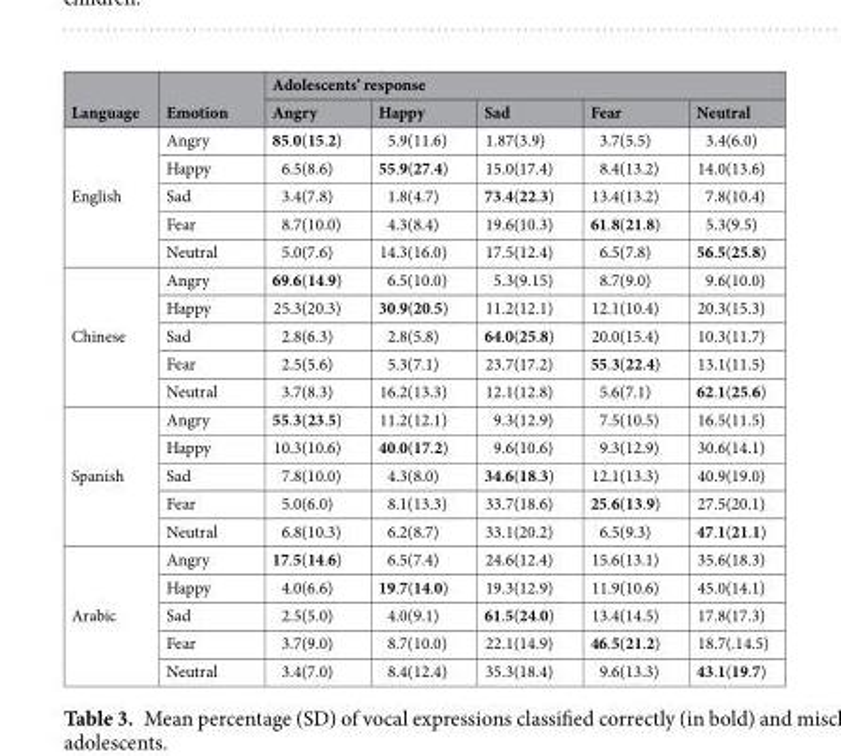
<table><thead><tr><td rowspan="2">Language</td><td rowspan="2">Emotion</td><td colspan="5">Adolescents’ response</td></tr><tr><td>Angry</td><td>Happy</td><td>Sad</td><td>Fear</td><td>Neutral</td></tr></thead><tbody><tr><td rowspan="5">English</td><td>Angry</td><td>85.0(15.2)</td><td>5.9(11.6)</td><td>1.87(3.9)</td><td>3.7(5.5)</td><td>3.4(6.0)</td></tr><tr><td>Happy</td><td>6.5(8.6)</td><td>55.9(27.4)</td><td>15.0(17.4)</td><td>8.4(13.2)</td><td>14.0(13.6)</td></tr><tr><td>Sad</td><td>3.4(7.8)</td><td>1.8(4.7)</td><td>73.4(22.3)</td><td>13.4(13.2)</td><td>7.8(10.4)</td></tr><tr><td>Fear</td><td>8.7(10.0)</td><td>4.3(8.4)</td><td>19.6(10.3)</td><td>61.8(21.8)</td><td>5.3(9.5)</td></tr><tr><td>Neutral</td><td>5.0(7.6)</td><td>14.3(16.0)</td><td>17.5(12.4)</td><td>6.5(7.8)</td><td>56.5(25.8)</td></tr><tr><td rowspan="5">Chinese</td><td>Angry</td><td>69.6(14.9)</td><td>6.5(10.0)</td><td>5.3(9.15)</td><td>8.7(9.0)</td><td>9.6(10.0)</td></tr><tr><td>Happy</td><td>25.3(20.3)</td><td>30.9(20.5)</td><td>11.2(12.1)</td><td>12.1(10.4)</td><td>20.3(15.3)</td></tr><tr><td>Sad</td><td>2.8(6.3)</td><td>2.8(5.8)</td><td>64.0(25.8)</td><td>20.0(15.4)</td><td>10.3(11.7)</td></tr><tr><td>Fear</td><td>2.5(5.6)</td><td>5.3(7.1)</td><td>23.7(17.2)</td><td>55.3(22.4)</td><td>13.1(11.5)</td></tr><tr><td>Neutral</td><td>3.7(8.3)</td><td>16.2(13.3)</td><td>12.1(12.8)</td><td>5.6(7.1)</td><td>62.1(25.6)</td></tr><tr><td rowspan="5">Spanish</td><td>Angry</td><td>55.3(23.5)</td><td>11.2(12.1)</td><td>9.3(12.9)</td><td>7.5(10.5)</td><td>16.5(11.5)</td></tr><tr><td>Happy</td><td>10.3(10.6)</td><td>40.0(17.2)</td><td>9.6(10.6)</td><td>9.3(12.9)</td><td>30.6(14.1)</td></tr><tr><td>Sad</td><td>7.8(10.0)</td><td>4.3(8.0)</td><td>34.6(18.3)</td><td>12.1(13.3)</td><td>40.9(19.0)</td></tr><tr><td>Fear</td><td>5.0(6.0)</td><td>8.1(13.3)</td><td>33.7(18.6)</td><td>25.6(13.9)</td><td>27.5(20.1)</td></tr><tr><td>Neutral</td><td>6.8(10.3)</td><td>6.2(8.7)</td><td>33.1(20.2)</td><td>6.5(9.3)</td><td>47.1(21.1)</td></tr><tr><td rowspan="5">Arabic</td><td>Angry</td><td>17.5(14.6)</td><td>6.5(7.4)</td><td>24.6(12.4)</td><td>15.6(13.1)</td><td>35.6(18.3)</td></tr><tr><td>Happy</td><td>4.0(6.6)</td><td>19.7(14.0)</td><td>19.3(12.9)</td><td>11.9(10.6)</td><td>45.0(14.1)</td></tr><tr><td>Sad</td><td>2.5(5.0)</td><td>4.0(9.1)</td><td>61.5(24.0)</td><td>13.4(14.5)</td><td>17.8(17.3)</td></tr><tr><td>Fear</td><td>3.7(9.0)</td><td>8.7(10.0)</td><td>22.1(14.9)</td><td>46.5(21.2)</td><td>18.7(.14.5)</td></tr><tr><td>Neutral</td><td>3.4(7.0)</td><td>8.4(12.4)</td><td>35.3(18.4)</td><td>9.6(13.3)</td><td>43.1(19.7)</td></tr></tbody></table>